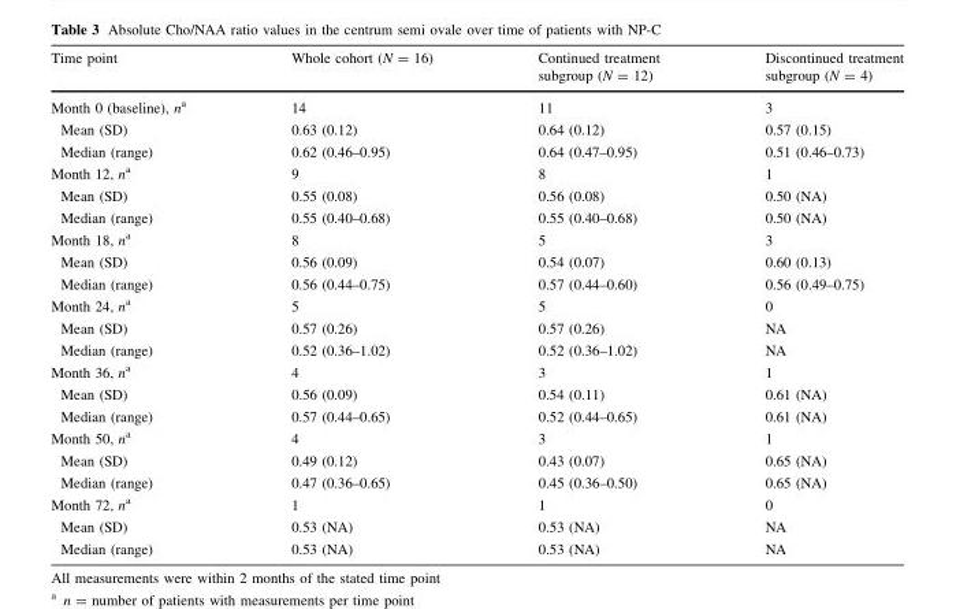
<table><thead><tr><td>Time point</td><td>Whole cohort (N = 16)</td><td>Continued treatment subgroup (N = 12)</td><td>Discontinued treatment subgroup (N = 4)</td></tr></thead><tbody><tr><td>Month 0 (baseline), n<sup>a</sup></td><td>14</td><td>11</td><td>3</td></tr><tr><td>Mean (SD)</td><td>0.63 (0.12)</td><td>0.64 (0.12)</td><td>0.57 (0.15)</td></tr><tr><td>Median (range)</td><td>0.62 (0.46–0.95)</td><td>0.64 (0.47–0.95)</td><td>0.51 (0.46–0.73)</td></tr><tr><td>Month 12, n<sup>a</sup></td><td>9</td><td>8</td><td>1</td></tr><tr><td>Mean (SD)</td><td>0.55 (0.08)</td><td>0.56 (0.08)</td><td>0.50 (NA)</td></tr><tr><td>Median (range)</td><td>0.55 (0.40–0.68)</td><td>0.55 (0.40–0.68)</td><td>0.50 (NA)</td></tr><tr><td>Month 18, n<sup>a</sup></td><td>8</td><td>5</td><td>3</td></tr><tr><td>Mean (SD)</td><td>0.56 (0.09)</td><td>0.54 (0.07)</td><td>0.60 (0.13)</td></tr><tr><td>Median (range)</td><td>0.56 (0.44–0.75)</td><td>0.57 (0.44–0.60)</td><td>0.56 (0.49–0.75)</td></tr><tr><td>Month 24, n<sup>a</sup></td><td>5</td><td>5</td><td>0</td></tr><tr><td>Mean (SD)</td><td>0.57 (0.26)</td><td>0.57 (0.26)</td><td>NA</td></tr><tr><td>Median (range)</td><td>0.52 (0.36–1.02)</td><td>0.52 (0.36–1.02)</td><td>NA</td></tr><tr><td>Month 36, n<sup>a</sup></td><td>4</td><td>3</td><td>1</td></tr><tr><td>Mean (SD)</td><td>0.56 (0.09)</td><td>0.54 (0.11)</td><td>0.61 (NA)</td></tr><tr><td>Median (range)</td><td>0.57 (0.44–0.65)</td><td>0.52 (0.44–0.65)</td><td>0.61 (NA)</td></tr><tr><td>Month 50, n<sup>a</sup></td><td>4</td><td>3</td><td>1</td></tr><tr><td>Mean (SD)</td><td>0.49 (0.12)</td><td>0.43 (0.07)</td><td>0.65 (NA)</td></tr><tr><td>Median (range)</td><td>0.47 (0.36–0.65)</td><td>0.45 (0.36–0.50)</td><td>0.65 (NA)</td></tr><tr><td>Month 72, n<sup>a</sup></td><td>1</td><td>1</td><td>0</td></tr><tr><td>Mean (SD)</td><td>0.53 (NA)</td><td>0.53 (NA)</td><td>NA</td></tr><tr><td>Median (range)</td><td>0.53 (NA)</td><td>0.53 (NA)</td><td>NA</td></tr></tbody></table>